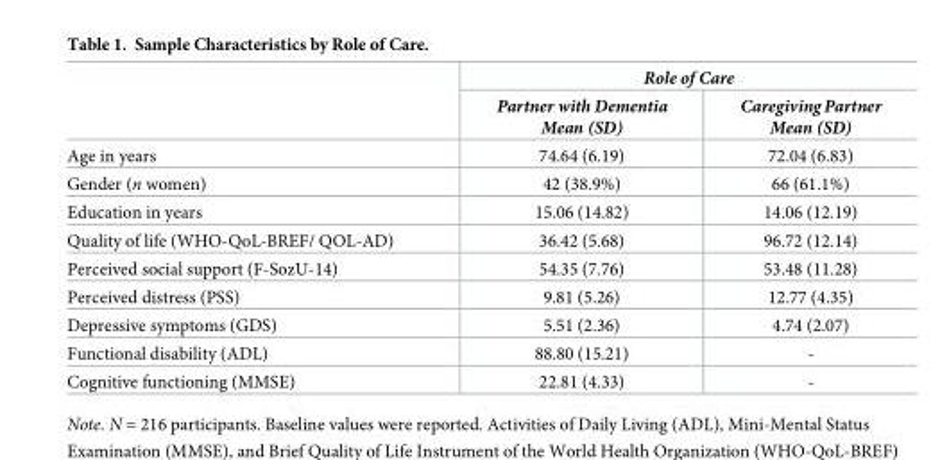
<table><thead><tr><td rowspan="2"></td><td colspan="2">Role of Care</td></tr><tr><td>Partner with Dementia Mean (SD)</td><td>Caregiving Partner Mean (SD)</td></tr></thead><tbody><tr><td>Age in years</td><td>74.64 (6.19)</td><td>72.04 (6.83)</td></tr><tr><td>Gender (n women)</td><td>42 (38.9%)</td><td>66 (61.1%)</td></tr><tr><td>Education in years</td><td>15.06 (14.82)</td><td>14.06 (12.19)</td></tr><tr><td>Quality of life (WHO-QoL-BREF/ QOL-AD)</td><td>36.42 (5.68)</td><td>96.72 (12.14)</td></tr><tr><td>Perceived social support (F-SozU-14)</td><td>54.35 (7.76)</td><td>53.48 (11.28)</td></tr><tr><td>Perceived distress (PSS)</td><td>9.81 (5.26)</td><td>12.77 (4.35)</td></tr><tr><td>Depressive symptoms (GDS)</td><td>5.51 (2.36)</td><td>4.74 (2.07)</td></tr><tr><td>Functional disability (ADL)</td><td>88.80 (15.21)</td><td>-</td></tr><tr><td>Cognitive functioning (MMSE)</td><td>22.81 (4.33)</td><td>-</td></tr></tbody></table>